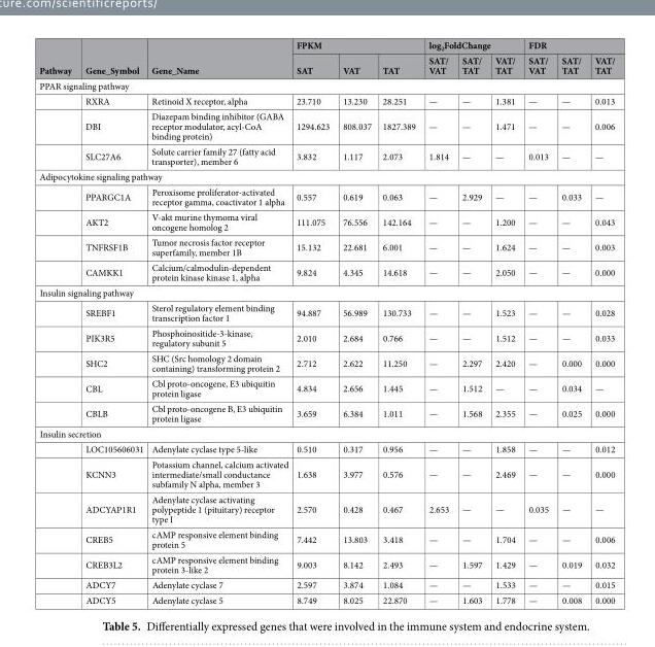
<table><thead><tr><td rowspan="2">Pathway</td><td rowspan="2">Gene_Symbol</td><td rowspan="2">Gene_Name</td><td colspan="3">FPKM</td><td colspan="3">log<sub>2</sub>FoldChange</td><td colspan="3">FDR</td></tr><tr><td>SAT</td><td>VAT</td><td>TAT</td><td>SAT/ VAT</td><td>SAT/ TAT</td><td>VAT/ TAT</td><td>SAT/ VAT</td><td>SAT/ TAT</td><td>VAT/ TAT</td></tr></thead><tbody><tr><td colspan="12">PPAR signaling pathway</td></tr><tr><td></td><td>RXRA</td><td>Retinoid X receptor, alpha</td><td>23.710</td><td>13.230</td><td>28.251</td><td>—</td><td>—</td><td>1.381</td><td>—</td><td>—</td><td>0.013</td></tr><tr><td></td><td>DBI</td><td>Diazepam binding inhibitor (GABA receptor modulator, acyl-CoA binding protein)</td><td>1294.623</td><td>808.037</td><td>1827.389</td><td>—</td><td>—</td><td>1.471</td><td>—</td><td>—</td><td>0.006</td></tr><tr><td></td><td>SLC27A6</td><td>Solute carrier family 27 (fatty acid transporter), member 6</td><td>3.832</td><td>1.117</td><td>2.073</td><td>1.814</td><td>—</td><td>—</td><td>0.013</td><td>—</td><td>—</td></tr><tr><td colspan="12">Adipocytokine signaling pathway</td></tr><tr><td></td><td>PPARGC1A</td><td>Peroxisome proliferator-activated receptor gamma, coactivator 1 alpha</td><td>0.557</td><td>0.619</td><td>0.063</td><td>—</td><td>2.929</td><td>—</td><td>—</td><td>0.033</td><td>—</td></tr><tr><td></td><td>AKT2</td><td>V-akt murine thymoma viral oncogene homolog 2</td><td>111.075</td><td>76.556</td><td>142.164</td><td>—</td><td>—</td><td>1.200</td><td>—</td><td>—</td><td>0.043</td></tr><tr><td></td><td>TNFRSF1B</td><td>Tumor necrosis factor receptor superfamily, member 1B</td><td>15.132</td><td>22.681</td><td>6.001</td><td>—</td><td>—</td><td>1.624</td><td>—</td><td>—</td><td>0.003</td></tr><tr><td></td><td>CAMKK1</td><td>Calcium/calmodulin-dependent protein kinase kinase 1, alpha</td><td>9.824</td><td>4.345</td><td>14.618</td><td>—</td><td>—</td><td>2.050</td><td>—</td><td>—</td><td>0.000</td></tr><tr><td colspan="12">Insulin signaling pathway</td></tr><tr><td></td><td>SREBF1</td><td>Sterol regulatory element binding transcription factor 1</td><td>94.887</td><td>56.989</td><td>130.733</td><td>—</td><td>—</td><td>1.523</td><td>—</td><td>—</td><td>0.028</td></tr><tr><td></td><td>PIK3R5</td><td>Phosphoinositide-3-kinase, regulatory subunit 5</td><td>2.010</td><td>2.684</td><td>0.766</td><td>—</td><td>—</td><td>1.512</td><td>—</td><td>—</td><td>0.033</td></tr><tr><td></td><td>SHC2</td><td>SHC (Src homology 2 domain containing) transforming protein 2</td><td>2.712</td><td>2.622</td><td>11.250</td><td>—</td><td>2.297</td><td>2.420</td><td>—</td><td>0.000</td><td>0.000</td></tr><tr><td></td><td>CBL</td><td>Cbl proto-oncogene, E3 ubiquitin protein ligase</td><td>4.834</td><td>2.656</td><td>1.445</td><td>—</td><td>1.512</td><td>—</td><td>—</td><td>0.034</td><td>—</td></tr><tr><td></td><td>CBLB</td><td>Cbl proto-oncogene B, E3 ubiquitin protein ligase</td><td>3.659</td><td>6.384</td><td>1.011</td><td>—</td><td>1.568</td><td>2.355</td><td>—</td><td>0.025</td><td>0.000</td></tr><tr><td colspan="12">Insulin secretion</td></tr><tr><td></td><td>LOC105606031</td><td>Adenylate cyclase type 5-like</td><td>0.510</td><td>0.317</td><td>0.956</td><td>—</td><td>—</td><td>1.858</td><td>—</td><td>—</td><td>0.012</td></tr><tr><td></td><td>KCNN3</td><td>Potassium channel, calcium activated intermediate/small conductance subfamily N alpha, member 3</td><td>1.638</td><td>3.977</td><td>0.576</td><td>—</td><td>—</td><td>2.469</td><td>—</td><td>—</td><td>0.000</td></tr><tr><td></td><td>ADCYAP1R1</td><td>Adenylate cyclase activating polypeptide 1 (pituitary) receptor type I</td><td>2.570</td><td>0.428</td><td>0.467</td><td>2.653</td><td>—</td><td>—</td><td>0.035</td><td>—</td><td>—</td></tr><tr><td></td><td>CREB5</td><td>cAMP responsive element binding protein 5</td><td>7.442</td><td>13.803</td><td>3.418</td><td>—</td><td>—</td><td>1.704</td><td>—</td><td>—</td><td>0.006</td></tr><tr><td></td><td>CREB3L2</td><td>cAMP responsive element binding protein 3-like 2</td><td>9.003</td><td>8.142</td><td>2.493</td><td>—</td><td>1.597</td><td>1.429</td><td>—</td><td>0.019</td><td>0.032</td></tr><tr><td></td><td>ADCY7</td><td>Adenylate cyclase 7</td><td>2.597</td><td>3.874</td><td>1.084</td><td>—</td><td>—</td><td>1.533</td><td>—</td><td>—</td><td>0.015</td></tr><tr><td></td><td>ADCY5</td><td>Adenylate cyclase 5</td><td>8.749</td><td>8.025</td><td>22.870</td><td>—</td><td>1.603</td><td>1.778</td><td>—</td><td>0.008</td><td>0.000</td></tr></tbody></table>